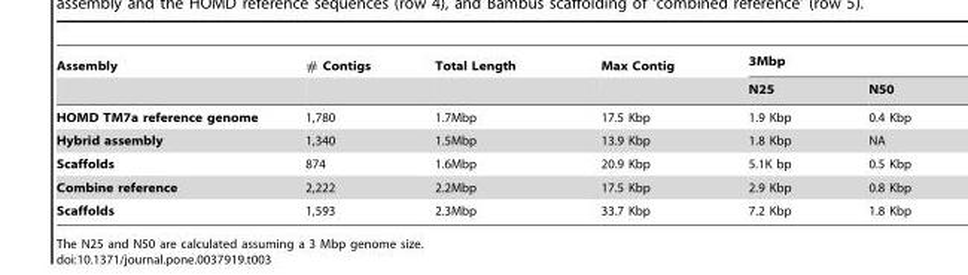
<table><thead><tr><td rowspan="2">Assembly</td><td rowspan="2"># Contigs</td><td rowspan="2">Total Length</td><td rowspan="2">Max Contig</td><td colspan="2">3Mbp</td></tr><tr><td>N25</td><td>N50</td></tr></thead><tbody><tr><td>HOMD TM7a reference genome</td><td>1,780</td><td>1.7Mbp</td><td>17.5 Kbp</td><td>1.9 Kbp</td><td>0.4 Kbp</td></tr><tr><td>Hybrid assembly</td><td>1,340</td><td>1.5Mbp</td><td>13.9 Kbp</td><td>1.8 Kbp</td><td>NA</td></tr><tr><td>Scaffolds</td><td>874</td><td>1.6Mbp</td><td>20.9 Kbp</td><td>5.1K bp</td><td>0.5 Kbp</td></tr><tr><td>Combine reference</td><td>2,222</td><td>2.2Mbp</td><td>17.5 Kbp</td><td>2.9 Kbp</td><td>0.8 Kbp</td></tr><tr><td>Scaffolds</td><td>1,593</td><td>2.3Mbp</td><td>33.7 Kbp</td><td>7.2 Kbp</td><td>1.8 Kbp</td></tr></tbody></table>